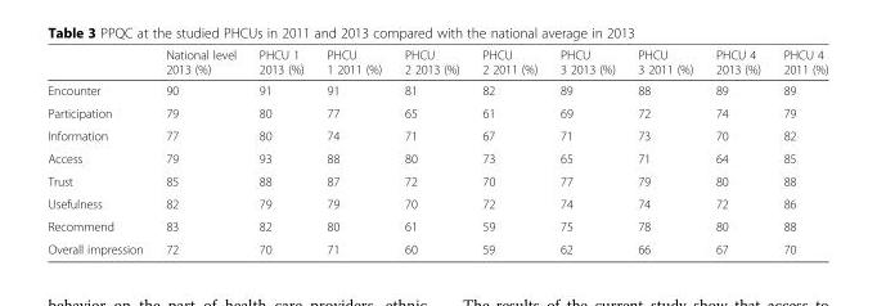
<table><thead><tr><td></td><td>National level 2013 (%)</td><td>PHCU 1 2013 (%)</td><td>PHCU 1 2011 (%)</td><td>PHCU 2 2013 (%)</td><td>PHCU 2 2011 (%)</td><td>PHCU 3 2013 (%)</td><td>PHCU 3 2011 (%)</td><td>PHCU 4 2013 (%)</td><td>PHCU 4 2011 (%)</td></tr></thead><tbody><tr><td>Encounter</td><td>90</td><td>91</td><td>91</td><td>81</td><td>82</td><td>89</td><td>88</td><td>89</td><td>89</td></tr><tr><td>Participation</td><td>79</td><td>80</td><td>77</td><td>65</td><td>61</td><td>69</td><td>72</td><td>74</td><td>79</td></tr><tr><td>Information</td><td>77</td><td>80</td><td>74</td><td>71</td><td>67</td><td>71</td><td>73</td><td>70</td><td>82</td></tr><tr><td>Access</td><td>79</td><td>93</td><td>88</td><td>80</td><td>73</td><td>65</td><td>71</td><td>64</td><td>85</td></tr><tr><td>Trust</td><td>85</td><td>88</td><td>87</td><td>72</td><td>70</td><td>77</td><td>79</td><td>80</td><td>88</td></tr><tr><td>Usefulness</td><td>82</td><td>79</td><td>79</td><td>70</td><td>72</td><td>74</td><td>74</td><td>72</td><td>86</td></tr><tr><td>Recommend</td><td>83</td><td>82</td><td>80</td><td>61</td><td>59</td><td>75</td><td>78</td><td>80</td><td>88</td></tr><tr><td>Overall impression</td><td>72</td><td>70</td><td>71</td><td>60</td><td>59</td><td>62</td><td>66</td><td>67</td><td>70</td></tr></tbody></table>